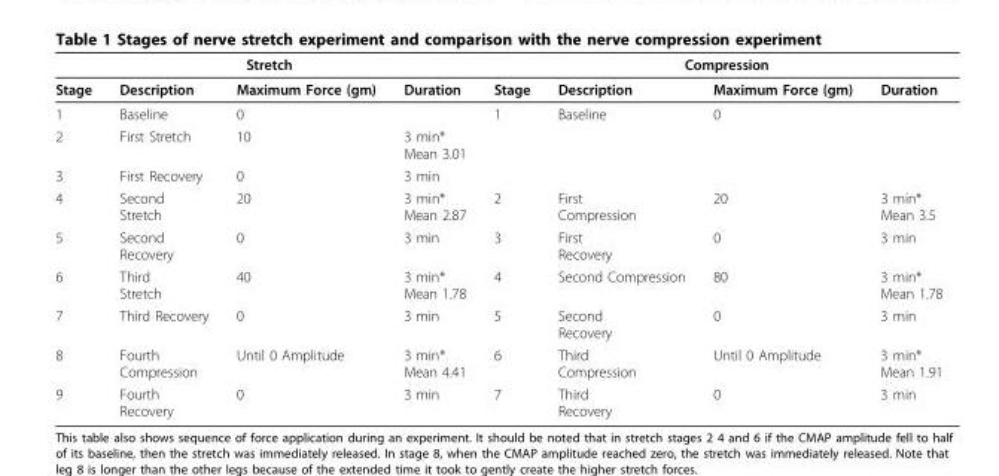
<table><thead><tr><td colspan="4">Stretch</td><td colspan="4">Compression</td></tr><tr><td>Stage</td><td>Description</td><td>Maximum Force (gm)</td><td>Duration</td><td>Stage</td><td>Description</td><td>Maximum Force (gm)</td><td>Duration</td></tr></thead><tbody><tr><td>1</td><td>Baseline</td><td>0</td><td></td><td>1</td><td>Baseline</td><td>0</td><td></td></tr><tr><td>2</td><td>First Stretch</td><td>10</td><td>3 min* Mean 3.01</td><td></td><td></td><td></td><td></td></tr><tr><td>3</td><td>First Recovery</td><td>0</td><td>3 min</td><td></td><td></td><td></td><td></td></tr><tr><td>4</td><td>Second Stretch</td><td>20</td><td>3 min* Mean 2.87</td><td>2</td><td>First Compression</td><td>20</td><td>3 min* Mean 3.5</td></tr><tr><td>5</td><td>Second Recovery</td><td>0</td><td>3 min</td><td>3</td><td>First Recovery</td><td>0</td><td>3 min</td></tr><tr><td>6</td><td>Third Stretch</td><td>40</td><td>3 min* Mean 1.78</td><td>4</td><td>Second Compression</td><td>80</td><td>3 min* Mean 1.78</td></tr><tr><td>7</td><td>Third Recovery</td><td>0</td><td>3 min</td><td>5</td><td>Second Recovery</td><td>0</td><td>3 min</td></tr><tr><td>8</td><td>Fourth Compression</td><td>Until 0 Amplitude</td><td>3 min* Mean 4.41</td><td>6</td><td>Third Compression</td><td>Until 0 Amplitude</td><td>3 min* Mean 1.91</td></tr><tr><td>9</td><td>Fourth Recovery</td><td>0</td><td>3 min</td><td>7</td><td>Third Recovery</td><td>0</td><td>3 min</td></tr></tbody></table>